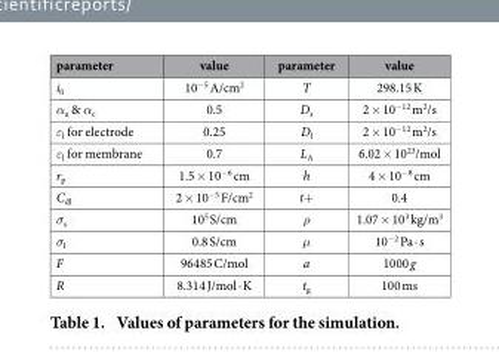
<table><thead><tr><td>parameter</td><td>value</td><td>parameter</td><td>value</td></tr></thead><tbody><tr><td>i<sub>0</sub></td><td>10<sup>−5</sup> A/cm<sup>2</sup></td><td>T</td><td>298.15 K</td></tr><tr><td>α<sub>a</sub> &amp; α<sub>c</sub></td><td>0.5</td><td>D<sub>s</sub></td><td>2 × 10<sup>−12</sup> m<sup>2</sup>/s</td></tr><tr><td>ε<sub>l</sub> for electrode</td><td>0.25</td><td>D<sub>l</sub></td><td>2 × 10<sup>−12</sup> m<sup>2</sup>/s</td></tr><tr><td>ε<sub>l</sub> for membrane</td><td>0.7</td><td>L<sub>A</sub></td><td>6.02 × 10<sup>23</sup>/mol</td></tr><tr><td>r<sub>p</sub></td><td>1.5 × 10<sup>−6</sup> cm</td><td>h</td><td>4 × 10<sup>−8</sup> cm</td></tr><tr><td>C<sub>dl</sub></td><td>2 × 10<sup>−5</sup> F/cm<sup>2</sup></td><td>t+</td><td>0.4</td></tr><tr><td>σ<sub>s</sub></td><td>10<sup>5</sup> S/cm</td><td>ρ</td><td>1.07 × 10<sup>3</sup> kg/m<sup>3</sup></td></tr><tr><td>σ<sub>l</sub></td><td>0.8 S/cm</td><td>μ</td><td>10<sup>−2</sup> Pa · s</td></tr><tr><td>F</td><td>96485 C/mol</td><td>a</td><td>1000 g</td></tr><tr><td>R</td><td>8.314 J/mol · K</td><td>t<sub>g</sub></td><td>100 ms</td></tr></tbody></table>